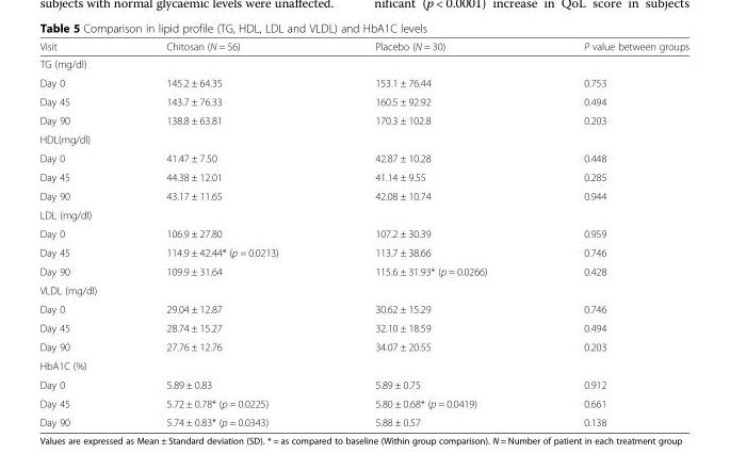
<table><thead><tr><td>Visit</td><td>Chitosan (N = 56)</td><td>Placebo (N = 30)</td><td>P value between groups</td></tr></thead><tbody><tr><td colspan="4">TG (mg/dl)</td></tr><tr><td>Day 0</td><td>145.2 ± 64.35</td><td>153.1 ± 76.44</td><td>0.753</td></tr><tr><td>Day 45</td><td>143.7 ± 76.33</td><td>160.5 ± 92.92</td><td>0.494</td></tr><tr><td>Day 90</td><td>138.8 ± 63.81</td><td>170.3 ± 102.8</td><td>0.203</td></tr><tr><td colspan="4">HDL(mg/dl)</td></tr><tr><td>Day 0</td><td>41.47 ± 7.50</td><td>42.87 ± 10.28</td><td>0.448</td></tr><tr><td>Day 45</td><td>44.38 ± 12.01</td><td>41.14 ± 9.55</td><td>0.285</td></tr><tr><td>Day 90</td><td>43.17 ± 11.65</td><td>42.08 ± 10.74</td><td>0.944</td></tr><tr><td colspan="4">LDL (mg/dl)</td></tr><tr><td>Day 0</td><td>106.9 ± 27.80</td><td>107.2 ± 30.39</td><td>0.959</td></tr><tr><td>Day 45</td><td>114.9 ± 42.44* (p = 0.0213)</td><td>113.7 ± 38.66</td><td>0.746</td></tr><tr><td>Day 90</td><td>109.9 ± 31.64</td><td>115.6 ± 31.93* (p = 0.0266)</td><td>0.428</td></tr><tr><td colspan="4">VLDL (mg/dl)</td></tr><tr><td>Day 0</td><td>29.04 ± 12.87</td><td>30.62 ± 15.29</td><td>0.746</td></tr><tr><td>Day 45</td><td>28.74 ± 15.27</td><td>32.10 ± 18.59</td><td>0.494</td></tr><tr><td>Day 90</td><td>27.76 ± 12.76</td><td>34.07 ± 20.55</td><td>0.203</td></tr><tr><td colspan="4">HbA1C (%)</td></tr><tr><td>Day 0</td><td>5.89 ± 0.83</td><td>5.89 ± 0.75</td><td>0.912</td></tr><tr><td>Day 45</td><td>5.72 ± 0.78* (p = 0.0225)</td><td>5.80 ± 0.68* (p = 0.0419)</td><td>0.661</td></tr><tr><td>Day 90</td><td>5.74 ± 0.83* (p = 0.0343)</td><td>5.88 ± 0.57</td><td>0.138</td></tr></tbody></table>